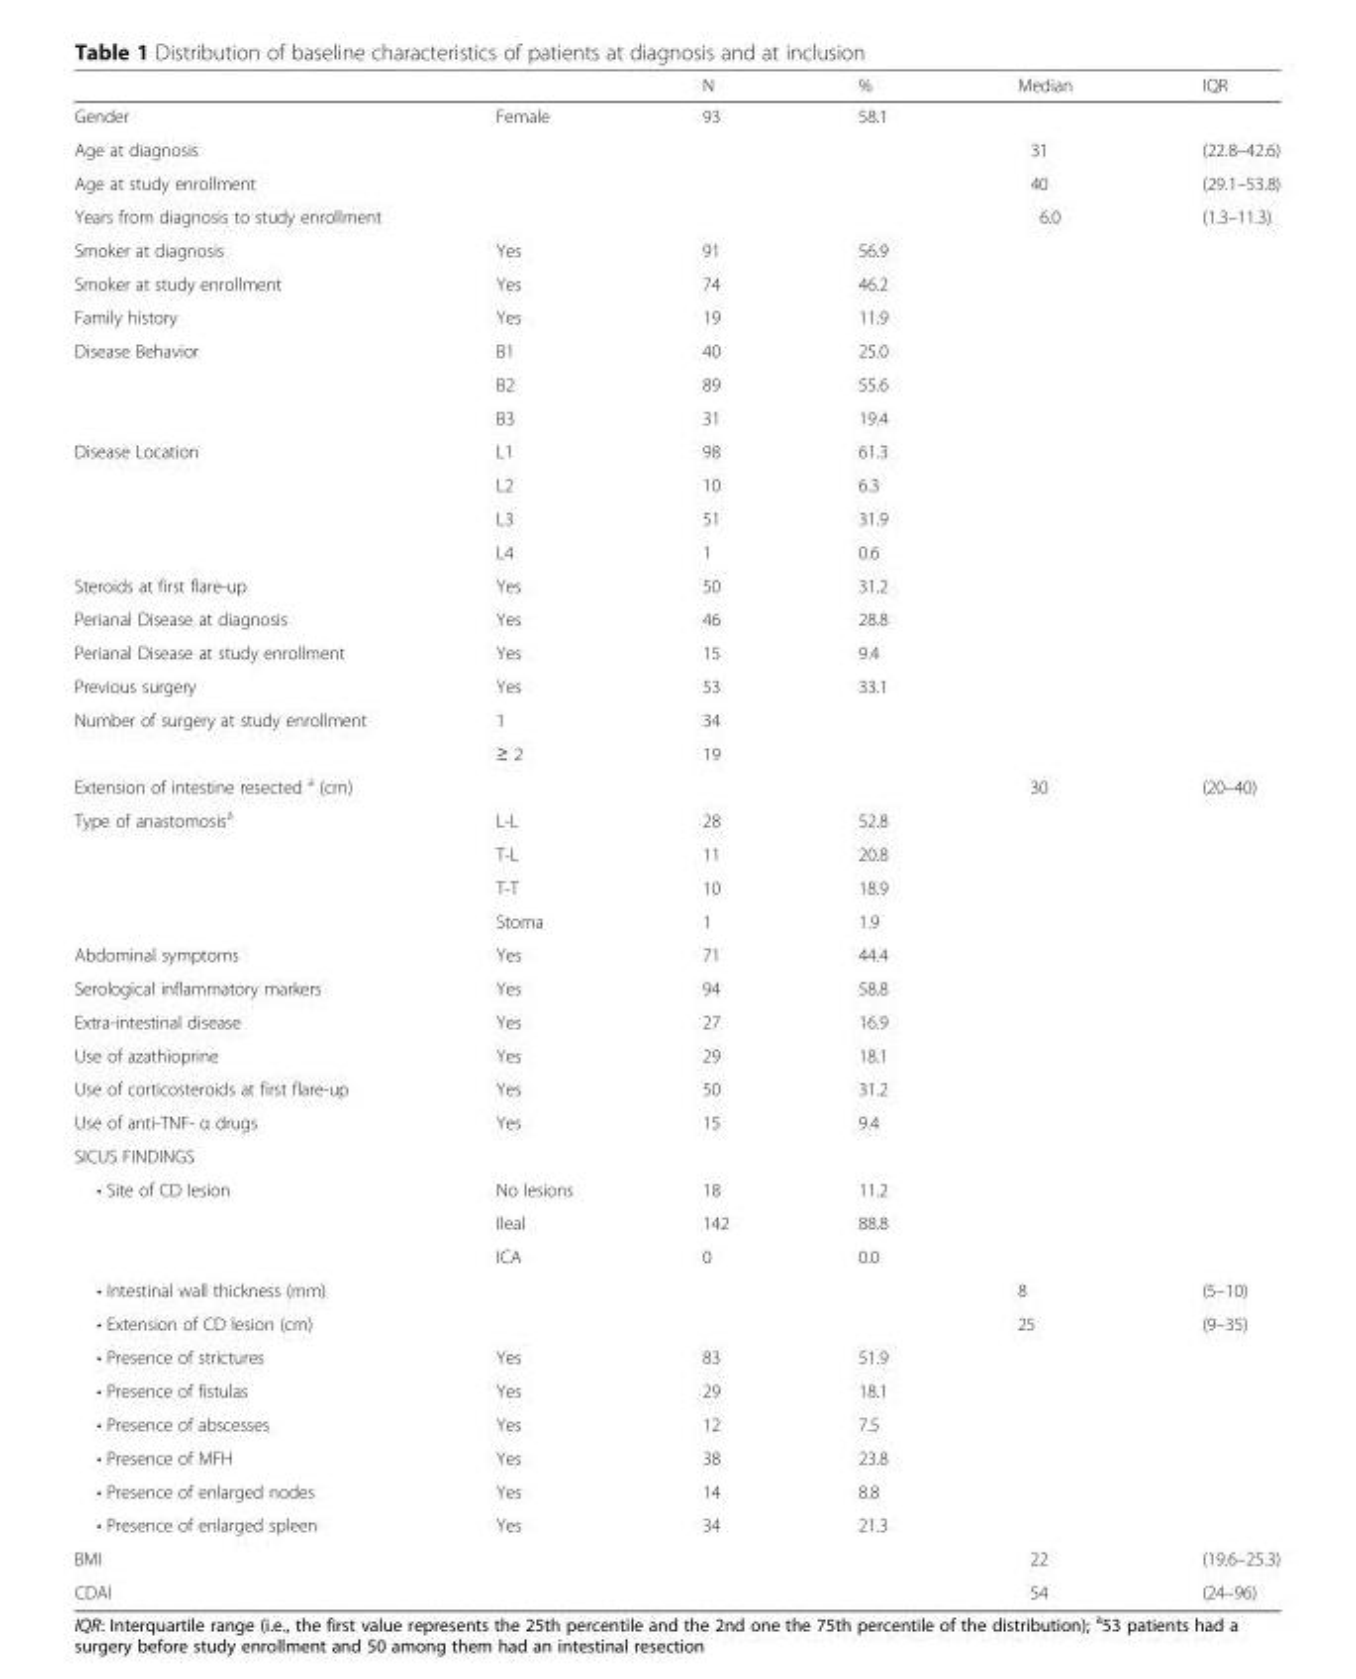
<table><thead><tr><td></td><td></td><td>N</td><td>%</td><td>Median</td><td>IQR</td></tr></thead><tbody><tr><td>Gender</td><td>Female</td><td>93</td><td>58.1</td><td></td><td></td></tr><tr><td>Age at diagnosis</td><td></td><td></td><td></td><td>31</td><td>(22.8–42.6)</td></tr><tr><td>Age at study enrollment</td><td></td><td></td><td></td><td>40</td><td>(29.1–53.8)</td></tr><tr><td colspan="2">Years from diagnosis to study enrollment</td><td></td><td></td><td>6.0</td><td>(1.3–11.3)</td></tr><tr><td>Smoker at diagnosis</td><td>Yes</td><td>91</td><td>56.9</td><td></td><td></td></tr><tr><td>Smoker at study enrollment</td><td>Yes</td><td>74</td><td>46.2</td><td></td><td></td></tr><tr><td>Family history</td><td>Yes</td><td>19</td><td>11.9</td><td></td><td></td></tr><tr><td rowspan="3">Disease Behavior</td><td>B1</td><td>40</td><td>25.0</td><td></td><td></td></tr><tr><td>B2</td><td>89</td><td>55.6</td><td></td><td></td></tr><tr><td>B3</td><td>31</td><td>19.4</td><td></td><td></td></tr><tr><td rowspan="4">Disease Location</td><td>L1</td><td>98</td><td>61.3</td><td></td><td></td></tr><tr><td>L2</td><td>10</td><td>6.3</td><td></td><td></td></tr><tr><td>L3</td><td>51</td><td>31.9</td><td></td><td></td></tr><tr><td>L4</td><td>1</td><td>0.6</td><td></td><td></td></tr><tr><td>Steroids at first flare-up</td><td>Yes</td><td>50</td><td>31.2</td><td></td><td></td></tr><tr><td>Perianal Disease at diagnosis</td><td>Yes</td><td>46</td><td>28.8</td><td></td><td></td></tr><tr><td>Perianal Disease at study enrollment</td><td>Yes</td><td>15</td><td>9.4</td><td></td><td></td></tr><tr><td>Previous surgery</td><td>Yes</td><td>53</td><td>33.1</td><td></td><td></td></tr><tr><td rowspan="2">Number of surgery at study enrollment</td><td>1</td><td>34</td><td></td><td></td><td></td></tr><tr><td>≥ 2</td><td>19</td><td></td><td></td><td></td></tr><tr><td colspan="2">Extension of intestine resected <sup>a</sup> (cm)</td><td></td><td></td><td>30</td><td>(20–40)</td></tr><tr><td rowspan="4">Type of anastomosis<sup>a</sup></td><td>L-L</td><td>28</td><td>52.8</td><td></td><td></td></tr><tr><td>T-L</td><td>11</td><td>20.8</td><td></td><td></td></tr><tr><td>T-T</td><td>10</td><td>18.9</td><td></td><td></td></tr><tr><td>Stoma</td><td>1</td><td>1.9</td><td></td><td></td></tr><tr><td>Abdominal symptoms</td><td>Yes</td><td>71</td><td>44.4</td><td></td><td></td></tr><tr><td>Serological inflammatory markers</td><td>Yes</td><td>94</td><td>58.8</td><td></td><td></td></tr><tr><td>Extra-intestinal disease</td><td>Yes</td><td>27</td><td>16.9</td><td></td><td></td></tr><tr><td>Use of azathioprine</td><td>Yes</td><td>29</td><td>18.1</td><td></td><td></td></tr><tr><td>Use of corticosteroids at first flare-up</td><td>Yes</td><td>50</td><td>31.2</td><td></td><td></td></tr><tr><td>Use of anti-TNF- α drugs</td><td>Yes</td><td>15</td><td>9.4</td><td></td><td></td></tr><tr><td colspan="6">SICUS FINDINGS</td></tr><tr><td rowspan="3">• Site of CD lesion</td><td>No lesions</td><td>18</td><td>11.2</td><td></td><td></td></tr><tr><td>Ileal</td><td>142</td><td>88.8</td><td></td><td></td></tr><tr><td>ICA</td><td>0</td><td>0.0</td><td></td><td></td></tr><tr><td colspan="2">• Intestinal wall thickness (mm)</td><td></td><td></td><td>8</td><td>(5–10)</td></tr><tr><td colspan="2">• Extension of CD lesion (cm)</td><td></td><td></td><td>25</td><td>(9–35)</td></tr><tr><td>• Presence of strictures</td><td>Yes</td><td>83</td><td>51.9</td><td></td><td></td></tr><tr><td>• Presence of fistulas</td><td>Yes</td><td>29</td><td>18.1</td><td></td><td></td></tr><tr><td>• Presence of abscesses</td><td>Yes</td><td>12</td><td>7.5</td><td></td><td></td></tr><tr><td>• Presence of MFH</td><td>Yes</td><td>38</td><td>23.8</td><td></td><td></td></tr><tr><td>• Presence of enlarged nodes</td><td>Yes</td><td>14</td><td>8.8</td><td></td><td></td></tr><tr><td>• Presence of enlarged spleen</td><td>Yes</td><td>34</td><td>21.3</td><td></td><td></td></tr><tr><td>BMI</td><td></td><td></td><td></td><td>22</td><td>(19.6–25.3)</td></tr><tr><td>CDAI</td><td></td><td></td><td></td><td>54</td><td>(24–96)</td></tr></tbody></table>